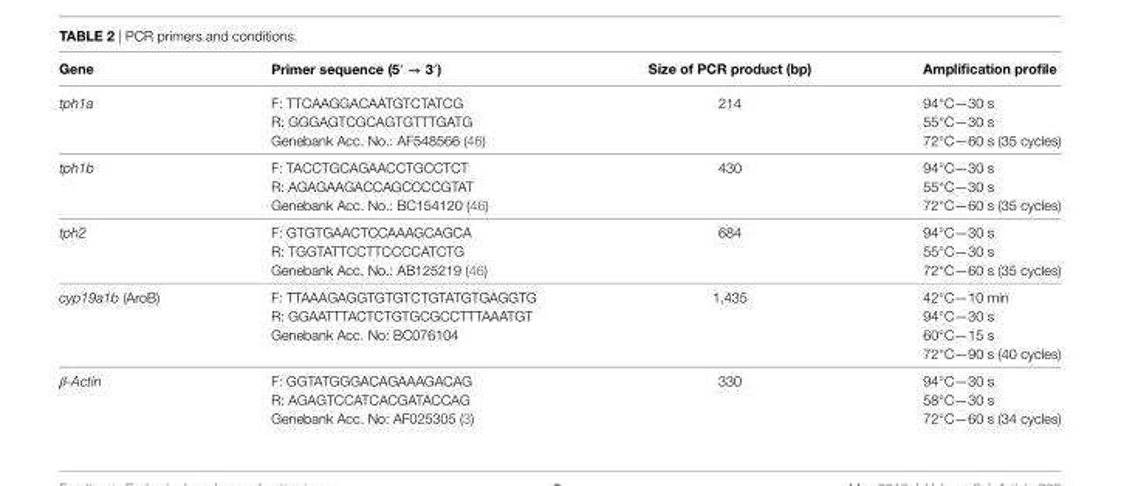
<table><thead><tr><td>gene</td><td>Primer sequence (5′ → 3′)</td><td>size of Pcr product (bp)</td><td>amplification profile</td></tr></thead><tbody><tr><td rowspan="3">tph1a</td><td>F: TTCAAGGACAATGTCTATCG</td><td rowspan="3">214</td><td>94°C—30 s</td></tr><tr><td>R: GGGAGTCGCAGTGTTTGATG</td><td>55°C—30 s</td></tr><tr><td>Genebank Acc. No.: AF548566 (46)</td><td>72°C—60 s (35 cycles)</td></tr><tr><td rowspan="3">tph1b</td><td>F: TACCTGCAGAACCTGCCTCT</td><td rowspan="3">430</td><td>94°C—30 s</td></tr><tr><td>R: AGAGAAGACCAGCCCCGTAT</td><td>55°C—30 s</td></tr><tr><td>Genebank Acc. No.: BC154120 (46)</td><td>72°C—60 s (35 cycles)</td></tr><tr><td rowspan="3">tph2</td><td>F: GTGTGAACTCCAAAGCAGCA</td><td rowspan="3">684</td><td>94°C—30 s</td></tr><tr><td>R: TGGTATTCCTTCCCCATCTG</td><td>55°C—30 s</td></tr><tr><td>Genebank Acc. No.: AB125219 (46)</td><td>72°C—60 s (35 cycles)</td></tr><tr><td rowspan="4">cyp19a1b (AroB)</td><td>F: TTAAAGAGGTGTGTCTGTATGTGAGGTG</td><td rowspan="4">1,435</td><td>42°C—10 min</td></tr><tr><td>R: GGAATTTACTCTGTGCGCCTTTAAATGT</td><td>94°C—30 s</td></tr><tr><td>Genebank Acc. No: BC076104</td><td>60°C—15 s</td></tr><tr><td></td><td>72°C—90 s (40 cycles)</td></tr><tr><td rowspan="3">β-Actin</td><td>F: GGTATGGGACAGAAAGACAG</td><td rowspan="3">330</td><td>94°C—30 s</td></tr><tr><td>R: AGAGTCCATCACGATACCAG</td><td>58°C—30 s</td></tr><tr><td>Genebank Acc. No: AF025305 (3)</td><td>72°C—60 s (34 cycles)</td></tr></tbody></table>